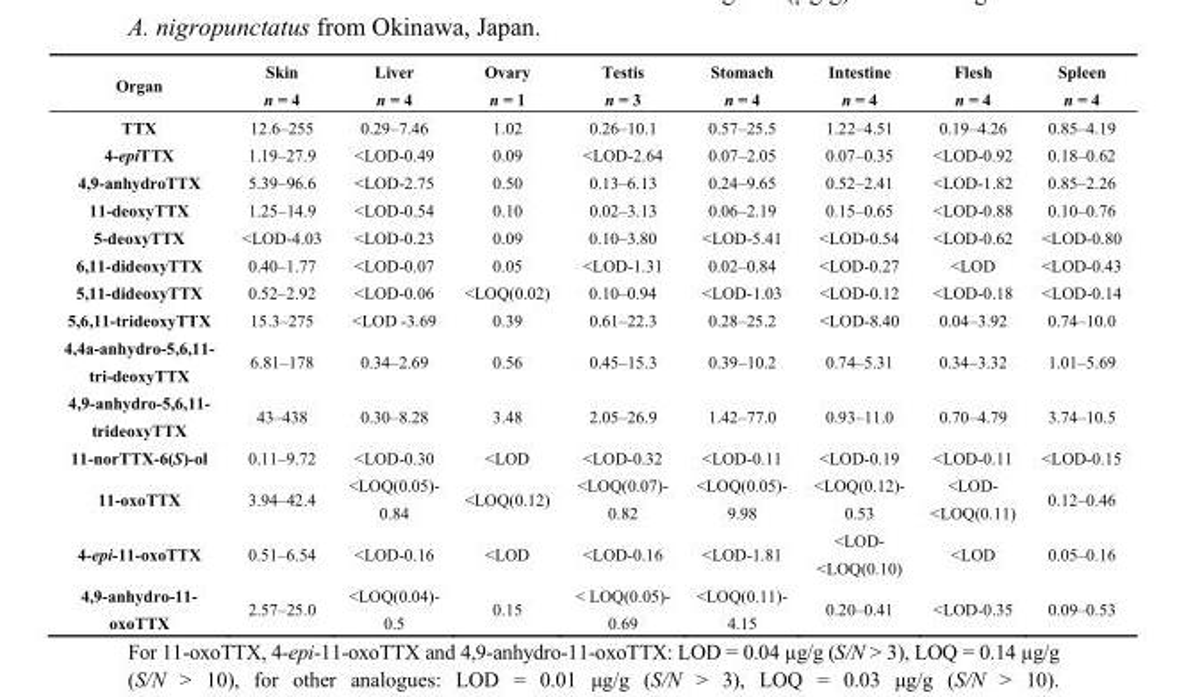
<table><thead><tr><td rowspan="2">Organ</td><td rowspan="2">Skin n = 4</td><td rowspan="2">Liver n = 4</td><td rowspan="2">Ovary n = 1</td><td rowspan="2">Testis n = 3</td><td rowspan="2">Stomach n = 4</td><td rowspan="2">Intestine n = 4</td><td rowspan="2">Flesh n = 4</td><td rowspan="2">Spleen n = 4</td></tr><tr></tr></thead><tbody><tr><td>TTX</td><td>12.6–255</td><td>0.29–7.46</td><td>1.02</td><td>0.26–10.1</td><td>0.57–25.5</td><td>1.22–4.51</td><td>0.19–4.26</td><td>0.85–4.19</td></tr><tr><td>4-epiTTX</td><td>1.19–27.9</td><td>&lt;LOD-0.49</td><td>0.09</td><td>&lt;LOD-2.64</td><td>0.07–2.05</td><td>0.07–0.35</td><td>&lt;LOD-0.92</td><td>0.18–0.62</td></tr><tr><td>4,9-anhydroTTX</td><td>5.39–96.6</td><td>&lt;LOD-2.75</td><td>0.50</td><td>0.13–6.13</td><td>0.24–9.65</td><td>0.52–2.41</td><td>&lt;LOD-1.82</td><td>0.85–2.26</td></tr><tr><td>11-deoxyTTX</td><td>1.25–14.9</td><td>&lt;LOD-0.54</td><td>0.10</td><td>0.02–3.13</td><td>0.06–2.19</td><td>0.15–0.65</td><td>&lt;LOD-0.88</td><td>0.10–0.76</td></tr><tr><td>5-deoxyTTX</td><td>&lt;LOD-4.03</td><td>&lt;LOD-0.23</td><td>0.09</td><td>0.10–3.80</td><td>&lt;LOD-5.41</td><td>&lt;LOD-0.54</td><td>&lt;LOD-0.62</td><td>&lt;LOD-0.80</td></tr><tr><td>6,11-dideoxyTTX</td><td>0.40–1.77</td><td>&lt;LOD-0.07</td><td>0.05</td><td>&lt;LOD-1.31</td><td>0.02–0.84</td><td>&lt;LOD-0.27</td><td>&lt;LOD</td><td>&lt;LOD-0.43</td></tr><tr><td>5,11-dideoxyTTX</td><td>0.52–2.92</td><td>&lt;LOD-0.06</td><td>&lt;LOQ(0.02)</td><td>0.10–0.94</td><td>&lt;LOD-1.03</td><td>&lt;LOD-0.12</td><td>&lt;LOD-0.18</td><td>&lt;LOD-0.14</td></tr><tr><td>5,6,11-trideoxyTTX</td><td>15.3–275</td><td>&lt;LOD -3.69</td><td>0.39</td><td>0.61–22.3</td><td>0.28–25.2</td><td>&lt;LOD-8.40</td><td>0.04–3.92</td><td>0.74–10.0</td></tr><tr><td>4,4a-anhydro-5,6,11- tri-deoxyTTX</td><td>6.81–178</td><td>0.34–2.69</td><td>0.56</td><td>0.45–15.3</td><td>0.39–10.2</td><td>0.74–5.31</td><td>0.34–3.32</td><td>1.01–5.69</td></tr><tr><td>4,9-anhydro-5,6,11- trideoxyTTX</td><td>43–438</td><td>0.30–8.28</td><td>3.48</td><td>2.05–26.9</td><td>1.42–77.0</td><td>0.93–11.0</td><td>0.70–4.79</td><td>3.74–10.5</td></tr><tr><td>11-norTTX-6(S)-ol</td><td>0.11–9.72</td><td>&lt;LOD-0.30</td><td>&lt;LOD</td><td>&lt;LOD-0.32</td><td>&lt;LOD-0.11</td><td>&lt;LOD-0.19</td><td>&lt;LOD-0.11</td><td>&lt;LOD-0.15</td></tr><tr><td>11-oxoTTX</td><td>3.94–42.4</td><td>&lt;LOQ(0.05)- 0.84</td><td>&lt;LOQ(0.12)</td><td>&lt;LOQ(0.07)- 0.82</td><td>&lt;LOQ(0.05)- 9.98</td><td>&lt;LOQ(0.12)- 0.53</td><td>&lt;LOD- &lt;LOQ(0.11)</td><td>0.12–0.46</td></tr><tr><td>4-epi-11-oxoTTX</td><td>0.51–6.54</td><td>&lt;LOD-0.16</td><td>&lt;LOD</td><td>&lt;LOD-0.16</td><td>&lt;LOD-1.81</td><td>&lt;LOD- &lt;LOQ(0.10)</td><td>&lt;LOD</td><td>0.05–0.16</td></tr><tr><td>4,9-anhydro-11- oxoTTX</td><td>2.57–25.0</td><td>&lt;LOQ(0.04)- 0.5</td><td>0.15</td><td>&lt; LOQ(0.05)- 0.69</td><td>&lt;LOQ(0.11)- 4.15</td><td>0.20–0.41</td><td>&lt;LOD-0.35</td><td>0.09–0.53</td></tr></tbody></table>